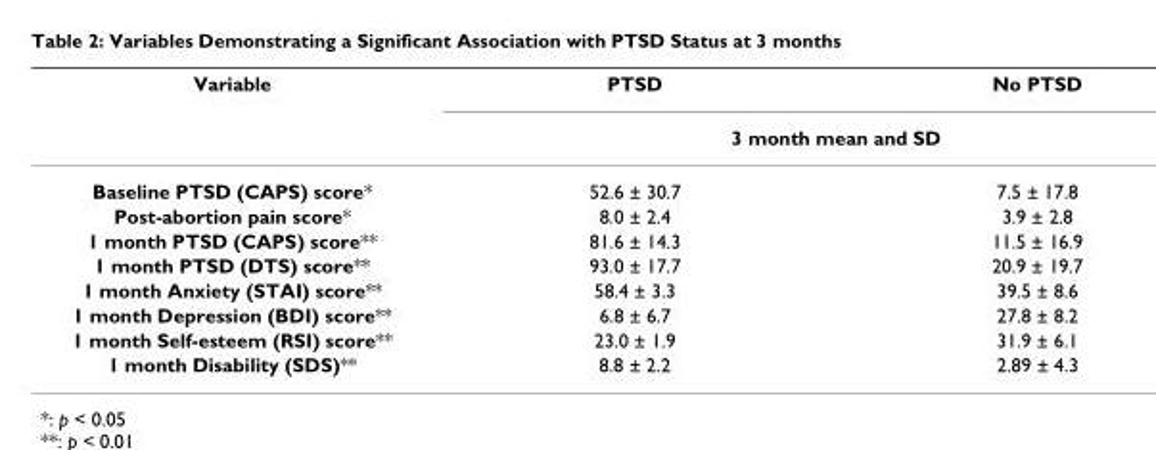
<table><thead><tr><td rowspan="2">Variable</td><td>PTSD</td><td>No PTSD</td></tr><tr><td colspan="2">3 month mean and SD</td></tr></thead><tbody><tr><td>Baseline PTSD (CAPS) score*</td><td>52.6 ± 30.7</td><td>7.5 ± 17.8</td></tr><tr><td>Post-abortion pain score*</td><td>8.0 ± 2.4</td><td>3.9 ± 2.8</td></tr><tr><td>1 month PTSD (CAPS) score**</td><td>81.6 ± 14.3</td><td>11.5 ± 16.9</td></tr><tr><td>1 month PTSD (DTS) score**</td><td>93.0 ± 17.7</td><td>20.9 ± 19.7</td></tr><tr><td>1 month Anxiety (STAI) score**</td><td>58.4 ± 3.3</td><td>39.5 ± 8.6</td></tr><tr><td>1 month Depression (BDI) score**</td><td>6.8 ± 6.7</td><td>27.8 ± 8.2</td></tr><tr><td>1 month Self-esteem (RSI) score**</td><td>23.0 ± 1.9</td><td>31.9 ± 6.1</td></tr><tr><td>1 month Disability (SDS)**</td><td>8.8 ± 2.2</td><td>2.89 ± 4.3</td></tr></tbody></table>